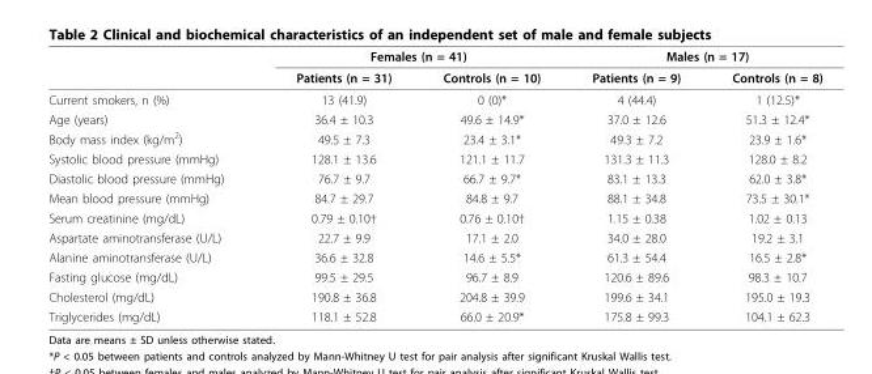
<table><thead><tr><td rowspan="2"></td><td colspan="2">Females (n = 41)</td><td colspan="2">Males (n = 17)</td></tr><tr><td>Patients (n = 31)</td><td>Controls (n = 10)</td><td>Patients (n = 9)</td><td>Controls (n = 8)</td></tr></thead><tbody><tr><td>Current smokers, n (%)</td><td>13 (41.9)</td><td>0 (0)*</td><td>4 (44.4)</td><td>1 (12.5)*</td></tr><tr><td>Age (years)</td><td>36.4 ± 10.3</td><td>49.6 ± 14.9*</td><td>37.0 ± 12.6</td><td>51.3 ± 12.4*</td></tr><tr><td>Body mass index (kg/m<sup>2</sup>)</td><td>49.5 ± 7.3</td><td>23.4 ± 3.1*</td><td>49.3 ± 7.2</td><td>23.9 ± 1.6*</td></tr><tr><td>Systolic blood pressure (mmHg)</td><td>128.1 ± 13.6</td><td>121.1 ± 11.7</td><td>131.3 ± 11.3</td><td>128.0 ± 8.2</td></tr><tr><td>Diastolic blood pressure (mmHg)</td><td>76.7 ± 9.7</td><td>66.7 ± 9.7*</td><td>83.1 ± 13.3</td><td>62.0 ± 3.8*</td></tr><tr><td>Mean blood pressure (mmHg)</td><td>84.7 ± 29.7</td><td>84.8 ± 9.7</td><td>88.1 ± 34.8</td><td>73.5 ± 30.1*</td></tr><tr><td>Serum creatinine (mg/dL)</td><td>0.79 ± 0.10†</td><td>0.76 ± 0.10†</td><td>1.15 ± 0.38</td><td>1.02 ± 0.13</td></tr><tr><td>Aspartate aminotransferase (U/L)</td><td>22.7 ± 9.9</td><td>17.1 ± 2.0</td><td>34.0 ± 28.0</td><td>19.2 ± 3.1</td></tr><tr><td>Alanine aminotransferase (U/L)</td><td>36.6 ± 32.8</td><td>14.6 ± 5.5*</td><td>61.3 ± 54.4</td><td>16.5 ± 2.8*</td></tr><tr><td>Fasting glucose (mg/dL)</td><td>99.5 ± 29.5</td><td>96.7 ± 8.9</td><td>120.6 ± 89.6</td><td>98.3 ± 10.7</td></tr><tr><td>Cholesterol (mg/dL)</td><td>190.8 ± 36.8</td><td>204.8 ± 39.9</td><td>199.6 ± 34.1</td><td>195.0 ± 19.3</td></tr><tr><td>Triglycerides (mg/dL)</td><td>118.1 ± 52.8</td><td>66.0 ± 20.9*</td><td>175.8 ± 99.3</td><td>104.1 ± 62.3</td></tr></tbody></table>